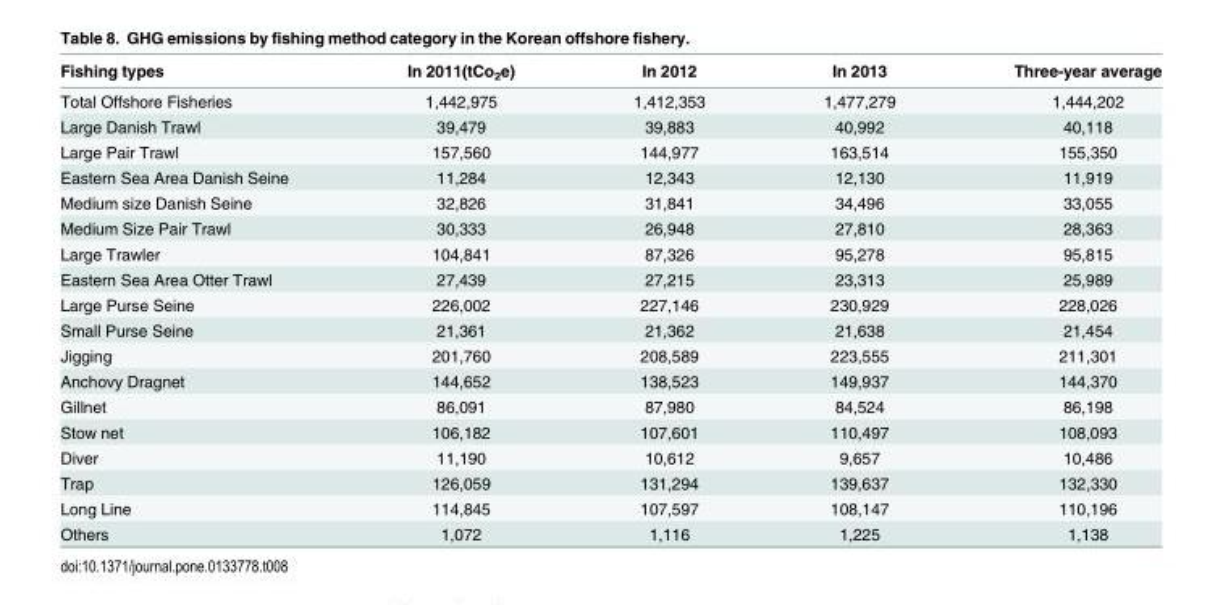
<table><thead><tr><td>Fishing types</td><td>In 2011(tCo<sub>2</sub>e)</td><td>In 2012</td><td>In 2013</td><td>Three-year average</td></tr></thead><tbody><tr><td>Total Offshore Fisheries</td><td>1,442,975</td><td>1,412,353</td><td>1,477,279</td><td>1,444,202</td></tr><tr><td>Large Danish Trawl</td><td>39,479</td><td>39,883</td><td>40,992</td><td>40,118</td></tr><tr><td>Large Pair Trawl</td><td>157,560</td><td>144,977</td><td>163,514</td><td>155,350</td></tr><tr><td>Eastern Sea Area Danish Seine</td><td>11,284</td><td>12,343</td><td>12,130</td><td>11,919</td></tr><tr><td>Medium size Danish Seine</td><td>32,826</td><td>31,841</td><td>34,496</td><td>33,055</td></tr><tr><td>Medium Size Pair Trawl</td><td>30,333</td><td>26,948</td><td>27,810</td><td>28,363</td></tr><tr><td>Large Trawler</td><td>104,841</td><td>87,326</td><td>95,278</td><td>95,815</td></tr><tr><td>Eastern Sea Area Otter Trawl</td><td>27,439</td><td>27,215</td><td>23,313</td><td>25,989</td></tr><tr><td>Large Purse Seine</td><td>226,002</td><td>227,146</td><td>230,929</td><td>228,026</td></tr><tr><td>Small Purse Seine</td><td>21,361</td><td>21,362</td><td>21,638</td><td>21,454</td></tr><tr><td>Jigging</td><td>201,760</td><td>208,589</td><td>223,555</td><td>211,301</td></tr><tr><td>Anchovy Dragnet</td><td>144,652</td><td>138,523</td><td>149,937</td><td>144,370</td></tr><tr><td>Gillnet</td><td>86,091</td><td>87,980</td><td>84,524</td><td>86,198</td></tr><tr><td>Stow net</td><td>106,182</td><td>107,601</td><td>110,497</td><td>108,093</td></tr><tr><td>Diver</td><td>11,190</td><td>10,612</td><td>9,657</td><td>10,486</td></tr><tr><td>Trap</td><td>126,059</td><td>131,294</td><td>139,637</td><td>132,330</td></tr><tr><td>Long Line</td><td>114,845</td><td>107,597</td><td>108,147</td><td>110,196</td></tr><tr><td>Others</td><td>1,072</td><td>1,116</td><td>1,225</td><td>1,138</td></tr></tbody></table>